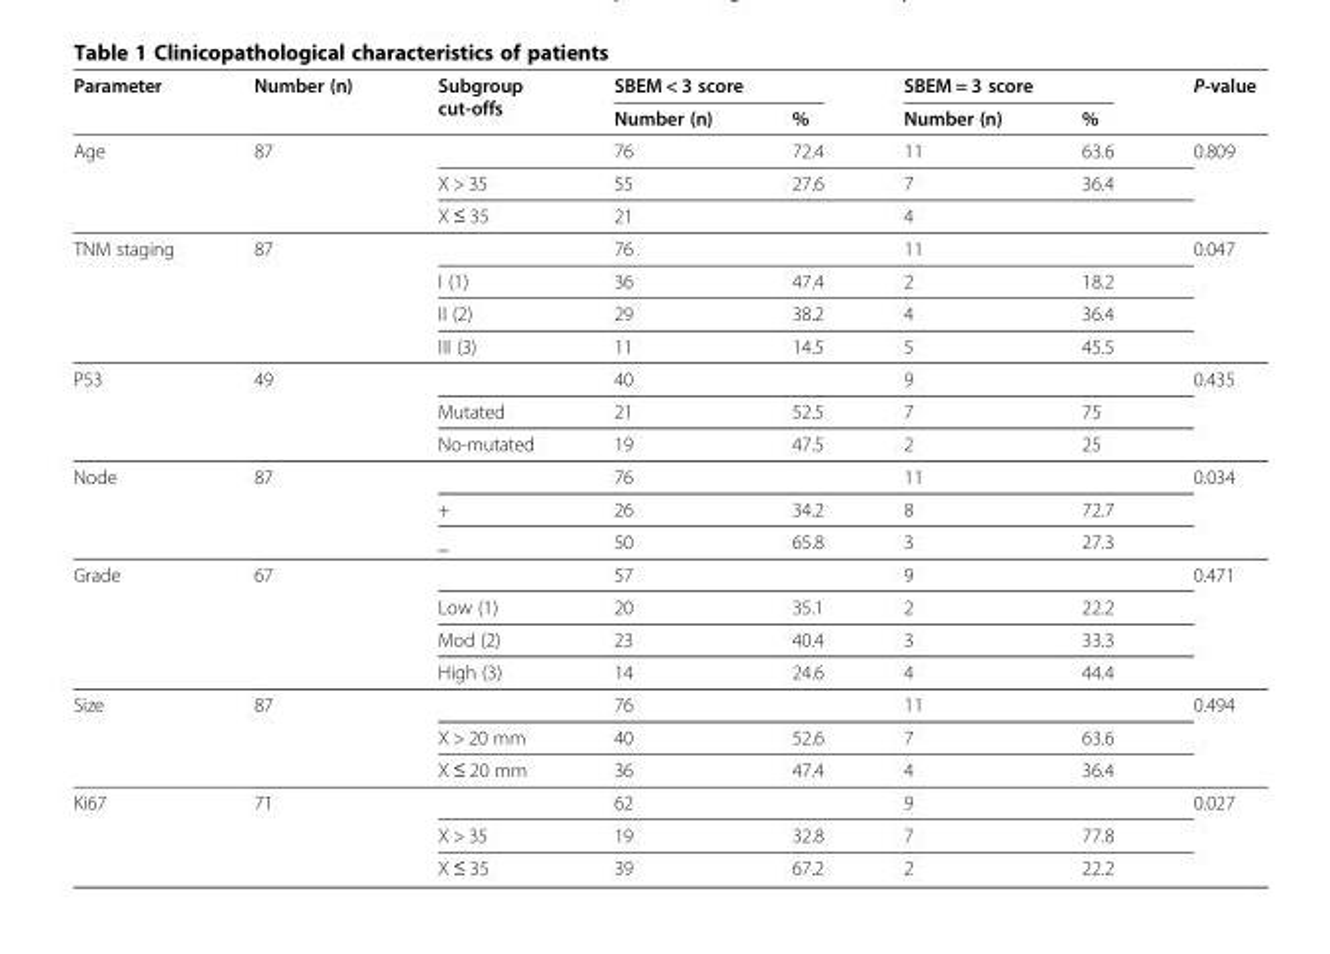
<table><thead><tr><td rowspan="2">Parameter</td><td rowspan="2">Number (n)</td><td rowspan="2">Subgroup cut-offs</td><td colspan="2">SBEM &lt; 3 score</td><td colspan="2">SBEM = 3 score</td><td rowspan="2">P-value</td></tr><tr><td>Number (n)</td><td>%</td><td>Number (n)</td><td>%</td></tr></thead><tbody><tr><td rowspan="3">Age</td><td rowspan="3">87</td><td></td><td>76</td><td>72.4</td><td>11</td><td>63.6</td><td rowspan="3">0.809</td></tr><tr><td>X &gt; 35</td><td>55</td><td>27.6</td><td>7</td><td>36.4</td></tr><tr><td>X ≤ 35</td><td>21</td><td></td><td>4</td><td></td></tr><tr><td rowspan="4">TNM staging</td><td rowspan="4">87</td><td></td><td>76</td><td></td><td>11</td><td></td><td rowspan="4">0.047</td></tr><tr><td>I (1)</td><td>36</td><td>47.4</td><td>2</td><td>18.2</td></tr><tr><td>II (2)</td><td>29</td><td>38.2</td><td>4</td><td>36.4</td></tr><tr><td>III (3)</td><td>11</td><td>14.5</td><td>5</td><td>45.5</td></tr><tr><td rowspan="3">P53</td><td rowspan="3">49</td><td></td><td>40</td><td></td><td>9</td><td></td><td rowspan="3">0.435</td></tr><tr><td>Mutated</td><td>21</td><td>52.5</td><td>7</td><td>75</td></tr><tr><td>No-mutated</td><td>19</td><td>47.5</td><td>2</td><td>25</td></tr><tr><td rowspan="3">Node</td><td rowspan="3">87</td><td></td><td>76</td><td></td><td>11</td><td></td><td rowspan="3">0.034</td></tr><tr><td>+</td><td>26</td><td>34.2</td><td>8</td><td>72.7</td></tr><tr><td>_</td><td>50</td><td>65.8</td><td>3</td><td>27.3</td></tr><tr><td rowspan="4">Grade</td><td rowspan="4">67</td><td></td><td>57</td><td></td><td>9</td><td></td><td rowspan="4">0.471</td></tr><tr><td>Low (1)</td><td>20</td><td>35.1</td><td>2</td><td>22.2</td></tr><tr><td>Mod (2)</td><td>23</td><td>40.4</td><td>3</td><td>33.3</td></tr><tr><td>High (3)</td><td>14</td><td>24.6</td><td>4</td><td>44.4</td></tr><tr><td rowspan="3">Size</td><td rowspan="3">87</td><td></td><td>76</td><td></td><td>11</td><td></td><td rowspan="3">0.494</td></tr><tr><td>X &gt; 20 mm</td><td>40</td><td>52.6</td><td>7</td><td>63.6</td></tr><tr><td>X ≤ 20 mm</td><td>36</td><td>47.4</td><td>4</td><td>36.4</td></tr><tr><td rowspan="3">Ki67</td><td rowspan="3">71</td><td></td><td>62</td><td></td><td>9</td><td></td><td rowspan="3">0.027</td></tr><tr><td>X &gt; 35</td><td>19</td><td>32.8</td><td>7</td><td>77.8</td></tr><tr><td>X ≤ 35</td><td>39</td><td>67.2</td><td>2</td><td>22.2</td></tr></tbody></table>